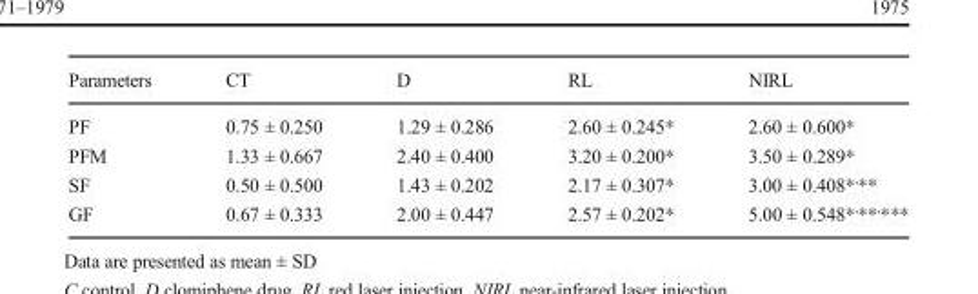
<table><thead><tr><td>Parameters</td><td>CT</td><td>D</td><td>RL</td><td>NIRL</td></tr></thead><tbody><tr><td>PF</td><td>0.75 ± 0.250</td><td>1.29 ± 0.286</td><td>2.60 ± 0.245*</td><td>2.60 ± 0.600*</td></tr><tr><td>PFM</td><td>1.33 ± 0.667</td><td>2.40 ± 0.400</td><td>3.20 ± 0.200*</td><td>3.50 ± 0.289*</td></tr><tr><td>SF</td><td>0.50 ± 0.500</td><td>1.43 ± 0.202</td><td>2.17 ± 0.307*</td><td>3.00 ± 0.408*<sup>,</sup>**</td></tr><tr><td>GF</td><td>0.67 ± 0.333</td><td>2.00 ± 0.447</td><td>2.57 ± 0.202*</td><td>5.00 ± 0.548*<sup>,</sup>**<sup>,</sup>***</td></tr></tbody></table>